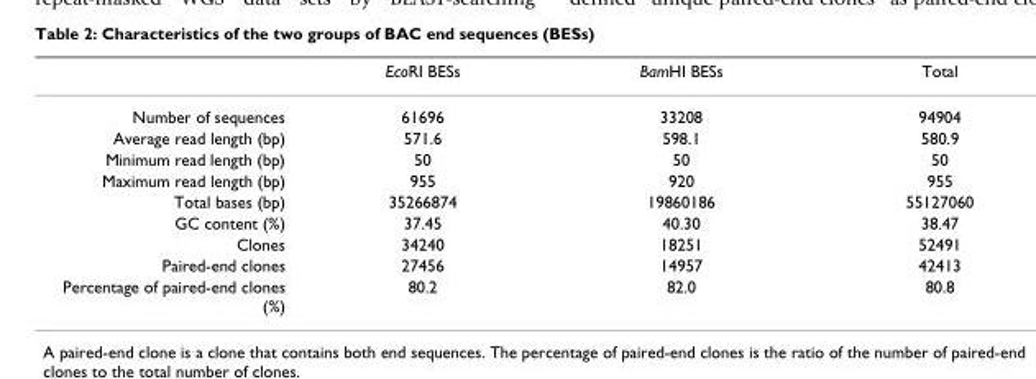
<table><thead><tr><td></td><td>EcoRI BESs</td><td>BamHI BESs</td><td>Total</td></tr></thead><tbody><tr><td>Number of sequences</td><td>61696</td><td>33208</td><td>94904</td></tr><tr><td>Average read length (bp)</td><td>571.6</td><td>598.1</td><td>580.9</td></tr><tr><td>Minimum read length (bp)</td><td>50</td><td>50</td><td>50</td></tr><tr><td>Maximum read length (bp)</td><td>955</td><td>920</td><td>955</td></tr><tr><td>Total bases (bp)</td><td>35266874</td><td>19860186</td><td>55127060</td></tr><tr><td>GC content (%)</td><td>37.45</td><td>40.30</td><td>38.47</td></tr><tr><td>Clones</td><td>34240</td><td>18251</td><td>52491</td></tr><tr><td>Paired-end clones</td><td>27456</td><td>14957</td><td>42413</td></tr><tr><td>Percentage of paired-end clones (%)</td><td>80.2</td><td>82.0</td><td>80.8</td></tr></tbody></table>